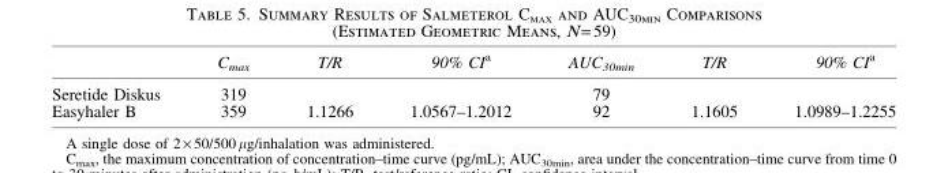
<table><thead><tr><td></td><td>C<sub>max</sub></td><td>T/R</td><td>90% CI<sup>a</sup></td><td>AUC<sub>30min</sub></td><td>T/R</td><td>90% CI<sup>a</sup></td></tr></thead><tbody><tr><td>Seretide Diskus</td><td>319</td><td></td><td></td><td>79</td><td></td><td></td></tr><tr><td>Easyhaler B</td><td>359</td><td>1.1266</td><td>1.0567–1.2012</td><td>92</td><td>1.1605</td><td>1.0989–1.2255</td></tr></tbody></table>